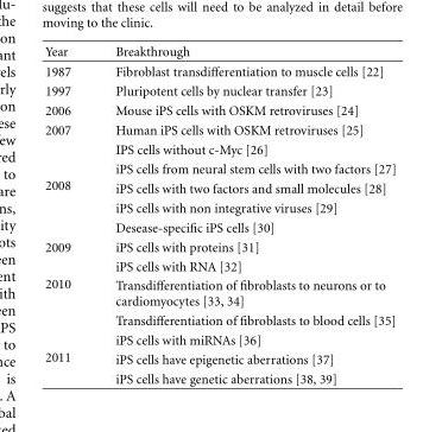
<table><thead><tr><td>Year</td><td>Breakthrough</td></tr></thead><tbody><tr><td>1987</td><td>Fibroblast transdifferentiation to muscle cells [22]</td></tr><tr><td>1997</td><td>Pluripotent cells by nuclear transfer [23]</td></tr><tr><td>2006</td><td>Mouse iPS cells with OSKM retroviruses [24]</td></tr><tr><td>2007</td><td>Human iPS cells with OSKM retroviruses [25]</td></tr><tr><td rowspan="5">2008</td><td>IPS cells without c-Myc [26]</td></tr><tr><td>iPS cells from neural stem cells with two factors [27]</td></tr><tr><td>iPS cells with two factors and small molecules [28]</td></tr><tr><td>iPS cells with non integrative viruses [29]</td></tr><tr><td>Desease-specific iPS cells [30]</td></tr><tr><td>2009</td><td>iPS cells with proteins [31]</td></tr><tr><td rowspan="3">2010</td><td>iPS cells with RNA [32]</td></tr><tr><td>Transdifferentiation of fibroblasts to neurons or to cardiomyocytes [33, 34]</td></tr><tr><td>Transdifferentiation of fibroblasts to blood cells [35]</td></tr><tr><td rowspan="3">2011</td><td>iPS cells with miRNAs [36]</td></tr><tr><td>iPS cells have epigenetic aberrations [37]</td></tr><tr><td>iPS cells have genetic aberrations [38, 39]</td></tr></tbody></table>